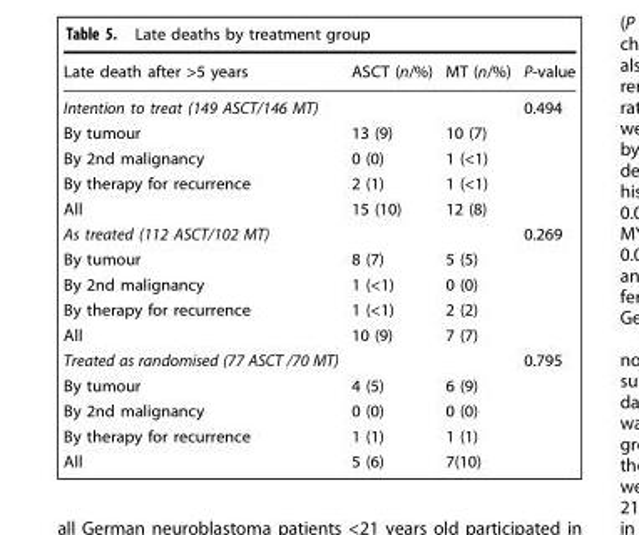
<table><thead><tr><td>Late death after &gt;5 years</td><td>ASCT (n/%)</td><td>MT (n/%)</td><td>P-value</td></tr></thead><tbody><tr><td>Intention to treat (149 ASCT/146 MT)</td><td></td><td></td><td>0.494</td></tr><tr><td>By tumour</td><td>13 (9)</td><td>10 (7)</td><td></td></tr><tr><td>By 2nd malignancy</td><td>0 (0)</td><td>1 (&lt;1)</td><td></td></tr><tr><td>By therapy for recurrence</td><td>2 (1)</td><td>1 (&lt;1)</td><td></td></tr><tr><td>All</td><td>15 (10)</td><td>12 (8)</td><td></td></tr><tr><td>As treated (112 ASCT/102 MT)</td><td></td><td></td><td>0.269</td></tr><tr><td>By tumour</td><td>8 (7)</td><td>5 (5)</td><td></td></tr><tr><td>By 2nd malignancy</td><td>1 (&lt;1)</td><td>0 (0)</td><td></td></tr><tr><td>By therapy for recurrence</td><td>1 (&lt;1)</td><td>2 (2)</td><td></td></tr><tr><td>All</td><td>10 (9)</td><td>7 (7)</td><td></td></tr><tr><td>Treated as randomised (77 ASCT /70 MT)</td><td></td><td></td><td>0.795</td></tr><tr><td>By tumour</td><td>4 (5)</td><td>6 (9)</td><td></td></tr><tr><td>By 2nd malignancy</td><td>0 (0)</td><td>0 (0)</td><td></td></tr><tr><td>By therapy for recurrence</td><td>1 (1)</td><td>1 (1)</td><td></td></tr><tr><td>All</td><td>5 (6)</td><td>7(10)</td><td></td></tr></tbody></table>